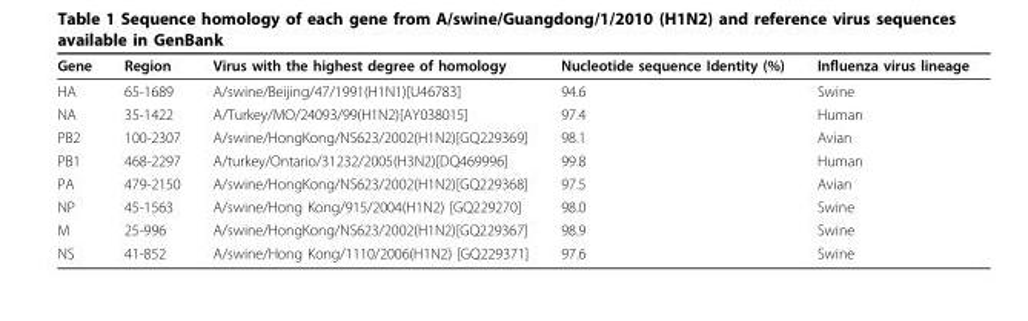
<table><thead><tr><td>Gene</td><td>Region</td><td>Virus with the highest degree of homology</td><td>Nucleotide sequence Identity (%)</td><td>Influenza virus lineage</td></tr></thead><tbody><tr><td>HA</td><td>65-1689</td><td>A/swine/Beijing/47/1991(H1N1)[U46783]</td><td>94.6</td><td>Swine</td></tr><tr><td>NA</td><td>35-1422</td><td>A/Turkey/MO/24093/99(H1N2)[AY038015]</td><td>97.4</td><td>Human</td></tr><tr><td>PB2</td><td>100-2307</td><td>A/swine/HongKong/NS623/2002(H1N2)[GQ229369]</td><td>98.1</td><td>Avian</td></tr><tr><td>PB1</td><td>468-2297</td><td>A/turkey/Ontario/31232/2005(H3N2)[DQ469996]</td><td>99.8</td><td>Human</td></tr><tr><td>PA</td><td>479-2150</td><td>A/swine/HongKong/NS623/2002(H1N2)[GQ229368]</td><td>97.5</td><td>Avian</td></tr><tr><td>NP</td><td>45-1563</td><td>A/swine/Hong Kong/915/2004(H1N2) [GQ229270]</td><td>98.0</td><td>Swine</td></tr><tr><td>M</td><td>25-996</td><td>A/swine/HongKong/NS623/2002(H1N2)[GQ229367]</td><td>98.9</td><td>Swine</td></tr><tr><td>NS</td><td>41-852</td><td>A/swine/Hong Kong/1110/2006(H1N2) [GQ229371]</td><td>97.6</td><td>Swine</td></tr></tbody></table>